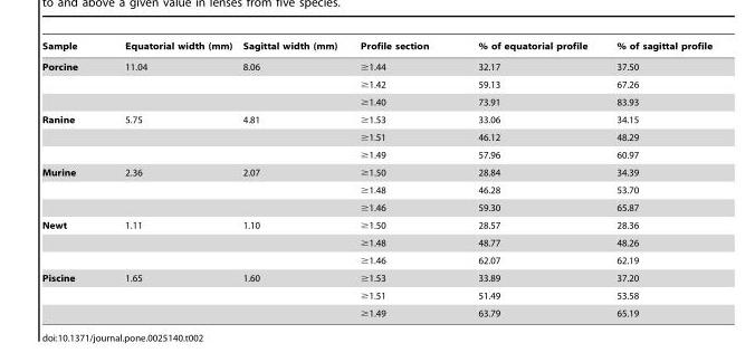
<table><thead><tr><td>Sample</td><td>Equatorial width (mm)</td><td>Sagittal width (mm)</td><td>Profile section</td><td>% of equatorial profile</td><td>% of sagittal profile</td></tr></thead><tbody><tr><td>Porcine</td><td>11.04</td><td>8.06</td><td>≥1.44</td><td>32.17</td><td>37.50</td></tr><tr><td colspan="3"></td><td>≥1.42</td><td>59.13</td><td>67.26</td></tr><tr><td colspan="3"></td><td>≥1.40</td><td>73.91</td><td>83.93</td></tr><tr><td>Ranine</td><td>5.75</td><td>4.81</td><td>≥1.53</td><td>33.06</td><td>34.15</td></tr><tr><td colspan="3"></td><td>≥1.51</td><td>46.12</td><td>48.29</td></tr><tr><td colspan="3"></td><td>≥1.49</td><td>57.96</td><td>60.97</td></tr><tr><td>Murine</td><td>2.36</td><td>2.07</td><td>≥1.50</td><td>28.84</td><td>34.39</td></tr><tr><td colspan="3"></td><td>≥1.48</td><td>46.28</td><td>53.70</td></tr><tr><td colspan="3"></td><td>≥1.46</td><td>59.30</td><td>65.87</td></tr><tr><td>Newt</td><td>1.11</td><td>1.10</td><td>≥1.50</td><td>28.57</td><td>28.36</td></tr><tr><td colspan="3"></td><td>≥1.48</td><td>48.77</td><td>48.26</td></tr><tr><td colspan="3"></td><td>≥1.46</td><td>62.07</td><td>62.19</td></tr><tr><td>Piscine</td><td>1.65</td><td>1.60</td><td>≥1.53</td><td>33.89</td><td>37.20</td></tr><tr><td colspan="3"></td><td>≥1.51</td><td>51.49</td><td>53.58</td></tr><tr><td colspan="3"></td><td>≥1.49</td><td>63.79</td><td>65.19</td></tr></tbody></table>